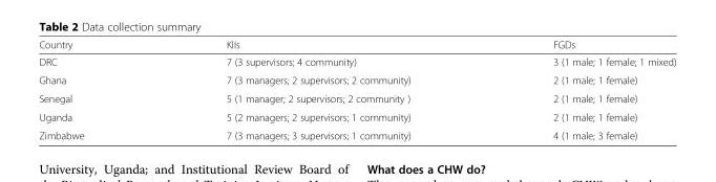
<table><thead><tr><td>Country</td><td>KIIs</td><td>FGDs</td></tr></thead><tbody><tr><td>DRC</td><td>7 (3 supervisors; 4 community)</td><td>3 (1 male; 1 female; 1 mixed)</td></tr><tr><td>Ghana</td><td>7 (3 managers; 2 supervisors; 2 community)</td><td>2 (1 male; 1 female)</td></tr><tr><td>Senegal</td><td>5 (1 manager; 2 supervisors; 2 community )</td><td>2 (1 male; 1 female)</td></tr><tr><td>Uganda</td><td>5 (2 managers; 2 supervisors; 1 community)</td><td>2 (1 male; 1 female)</td></tr><tr><td>Zimbabwe</td><td>7 (3 managers; 3 supervisors; 1 community)</td><td>4 (1 male; 3 female)</td></tr></tbody></table>